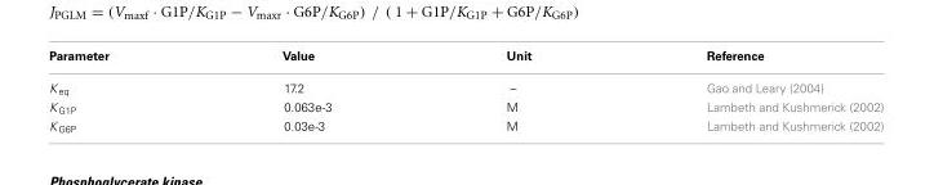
<table><thead><tr><td>Parameter</td><td>Value</td><td>Unit</td><td>Reference</td></tr></thead><tbody><tr><td>K <sub>eq</sub></td><td>17.2</td><td>–</td><td>Gao and Leary (2004)</td></tr><tr><td>K <sub>G1P</sub></td><td>0.063e-3</td><td>M</td><td>Lambeth and Kushmerick (2002)</td></tr><tr><td>K <sub>G6P</sub></td><td>0.03e-3</td><td>M</td><td>Lambeth and Kushmerick (2002)</td></tr></tbody></table>